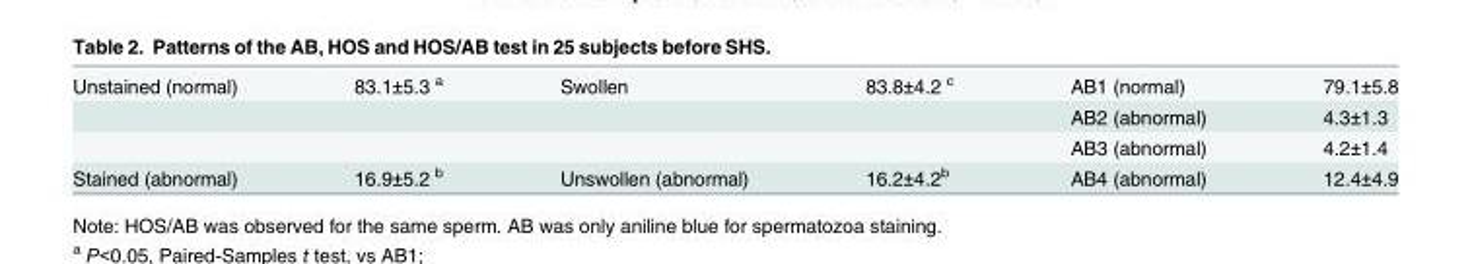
<table><tbody><tr><td rowspan="3">Unstained (normal)</td><td>83.1±5.3 <sup>a</sup></td><td>Swollen</td><td>83.8±4.2 <sup>c</sup></td><td>AB1 (normal)</td><td>79.1±5.8</td></tr><tr><td></td><td></td><td></td><td>AB2 (abnormal)</td><td>4.3±1.3</td></tr><tr><td></td><td></td><td></td><td>AB3 (abnormal)</td><td>4.2±1.4</td></tr><tr><td>Stained (abnormal)</td><td>16.9±5.2 <sup>b</sup></td><td>Unswollen (abnormal)</td><td>16.2±4.2<sup>b</sup></td><td>AB4 (abnormal)</td><td>12.4±4.9</td></tr></tbody></table>